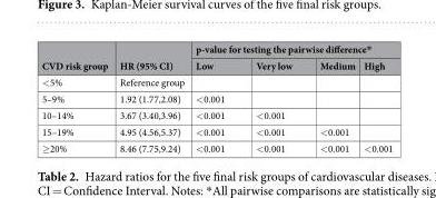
<table><thead><tr><td rowspan="2">CVD risk group</td><td rowspan="2">HR (95% CI)</td><td colspan="4">p-value for testing the pairwise difference*</td></tr><tr><td>Low</td><td>Very low</td><td>Medium</td><td>High</td></tr></thead><tbody><tr><td>&lt;5%</td><td>Reference group</td><td></td><td></td><td></td><td></td></tr><tr><td>5–9%</td><td>1.92 (1.77,2.08)</td><td>&lt;0.001</td><td></td><td></td><td></td></tr><tr><td>10–14%</td><td>3.67 (3.40,3.96)</td><td>&lt;0.001</td><td>&lt;0.001</td><td></td><td></td></tr><tr><td>15–19%</td><td>4.95 (4.56,5.37)</td><td>&lt;0.001</td><td>&lt;0.001</td><td>&lt;0.001</td><td></td></tr><tr><td>≥20%</td><td>8.46 (7.75,9.24)</td><td>&lt;0.001</td><td>&lt;0.001</td><td>&lt;0.001</td><td>&lt;0.001</td></tr></tbody></table>